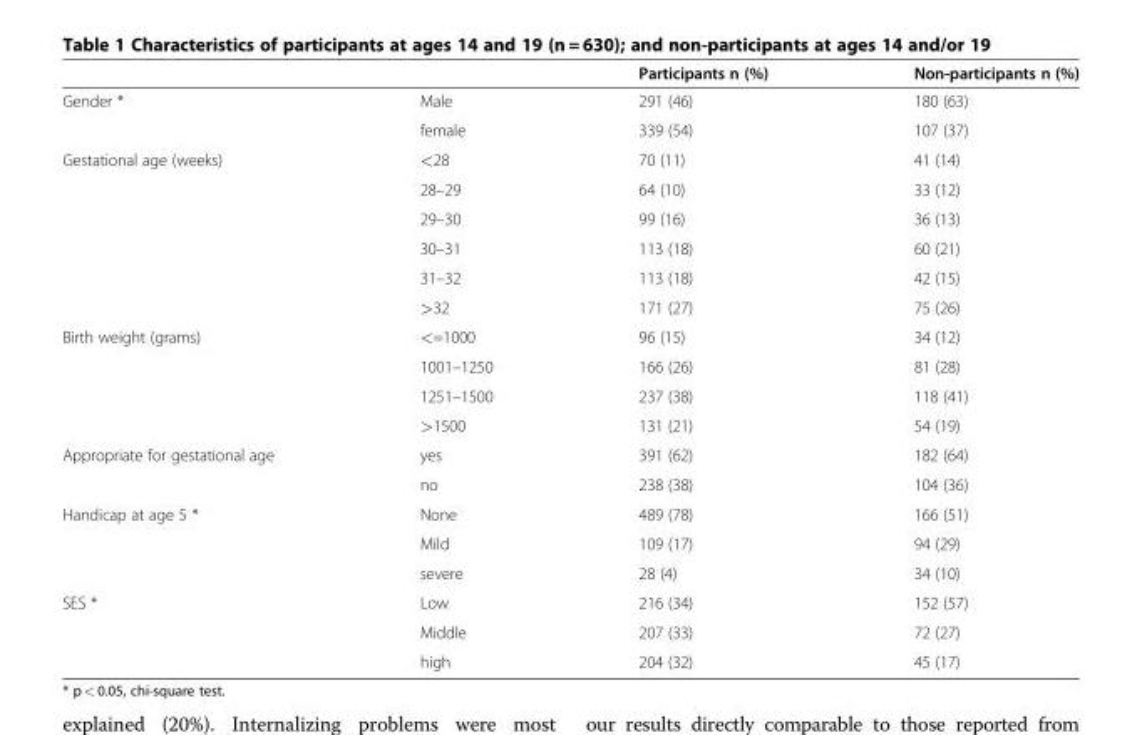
<table><thead><tr><td></td><td></td><td>Participants n (%)</td><td>Non-participants n (%)</td></tr></thead><tbody><tr><td rowspan="2">Gender *</td><td>Male</td><td>291 (46)</td><td>180 (63)</td></tr><tr><td>female</td><td>339 (54)</td><td>107 (37)</td></tr><tr><td rowspan="6">Gestational age (weeks)</td><td>&lt;28</td><td>70 (11)</td><td>41 (14)</td></tr><tr><td>28–29</td><td>64 (10)</td><td>33 (12)</td></tr><tr><td>29–30</td><td>99 (16)</td><td>36 (13)</td></tr><tr><td>30–31</td><td>113 (18)</td><td>60 (21)</td></tr><tr><td>31–32</td><td>113 (18)</td><td>42 (15)</td></tr><tr><td>&gt;32</td><td>171 (27)</td><td>75 (26)</td></tr><tr><td rowspan="4">Birth weight (grams)</td><td>&lt;=1000</td><td>96 (15)</td><td>34 (12)</td></tr><tr><td>1001–1250</td><td>166 (26)</td><td>81 (28)</td></tr><tr><td>1251–1500</td><td>237 (38)</td><td>118 (41)</td></tr><tr><td>&gt;1500</td><td>131 (21)</td><td>54 (19)</td></tr><tr><td rowspan="2">Appropriate for gestational age</td><td>yes</td><td>391 (62)</td><td>182 (64)</td></tr><tr><td>no</td><td>238 (38)</td><td>104 (36)</td></tr><tr><td rowspan="3">Handicap at age 5 *</td><td>None</td><td>489 (78)</td><td>166 (51)</td></tr><tr><td>Mild</td><td>109 (17)</td><td>94 (29)</td></tr><tr><td>severe</td><td>28 (4)</td><td>34 (10)</td></tr><tr><td rowspan="3">SES *</td><td>Low</td><td>216 (34)</td><td>152 (57)</td></tr><tr><td>Middle</td><td>207 (33)</td><td>72 (27)</td></tr><tr><td>high</td><td>204 (32)</td><td>45 (17)</td></tr></tbody></table>